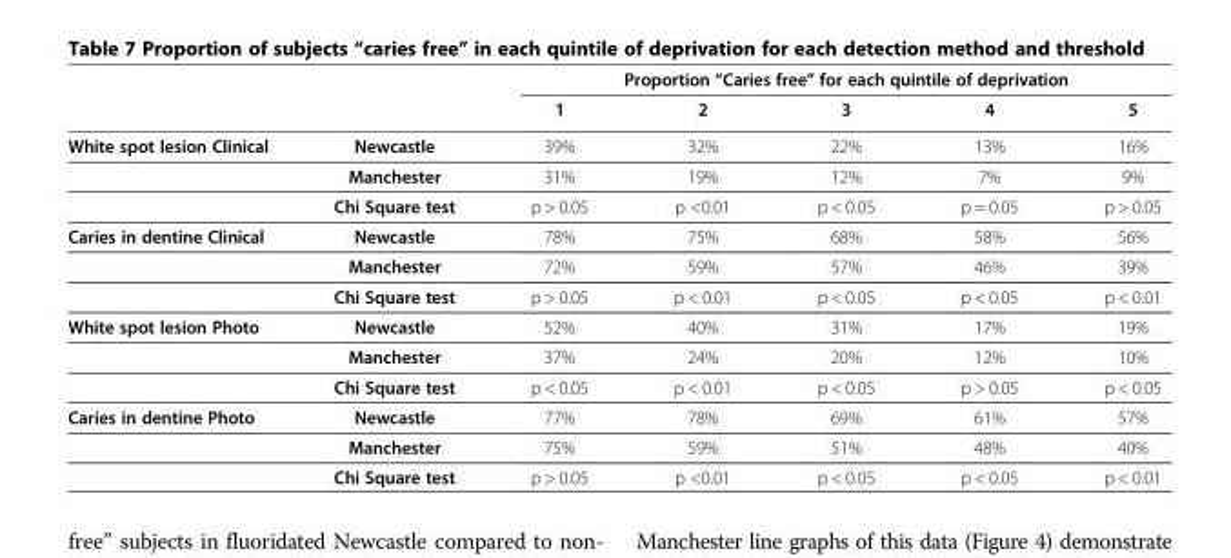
<table><thead><tr><td rowspan="2"></td><td rowspan="2"></td><td colspan="5">Proportion “Caries free” for each quintile of deprivation</td></tr><tr><td>1</td><td>2</td><td>3</td><td>4</td><td>5</td></tr></thead><tbody><tr><td rowspan="3">White spot lesion Clinical</td><td>Newcastle</td><td>39%</td><td>32%</td><td>22%</td><td>13%</td><td>16%</td></tr><tr><td>Manchester</td><td>31%</td><td>19%</td><td>12%</td><td>7%</td><td>9%</td></tr><tr><td>Chi Square test</td><td>p &gt; 0.05</td><td>p &lt;0.01</td><td>p &lt; 0.05</td><td>p = 0.05</td><td>p &gt; 0.05</td></tr><tr><td rowspan="3">Caries in dentine Clinical</td><td>Newcastle</td><td>78%</td><td>75%</td><td>68%</td><td>58%</td><td>56%</td></tr><tr><td>Manchester</td><td>72%</td><td>59%</td><td>57%</td><td>46%</td><td>39%</td></tr><tr><td>Chi Square test</td><td>p &gt; 0.05</td><td>p &lt; 0.01</td><td>p &lt; 0.05</td><td>p &lt; 0.05</td><td>p &lt; 0.01</td></tr><tr><td rowspan="3">White spot lesion Photo</td><td>Newcastle</td><td>52%</td><td>40%</td><td>31%</td><td>17%</td><td>19%</td></tr><tr><td>Manchester</td><td>37%</td><td>24%</td><td>20%</td><td>12%</td><td>10%</td></tr><tr><td>Chi Square test</td><td>p &lt; 0.05</td><td>p &lt; 0.01</td><td>p &lt; 0.05</td><td>p &gt; 0.05</td><td>p &lt; 0.05</td></tr><tr><td rowspan="3">Caries in dentine Photo</td><td>Newcastle</td><td>77%</td><td>78%</td><td>69%</td><td>61%</td><td>57%</td></tr><tr><td>Manchester</td><td>75%</td><td>59%</td><td>51%</td><td>48%</td><td>40%</td></tr><tr><td>Chi Square test</td><td>p &gt; 0.05</td><td>p &lt;0.01</td><td>p &lt; 0.05</td><td>p &lt; 0.05</td><td>p &lt; 0.01</td></tr></tbody></table>